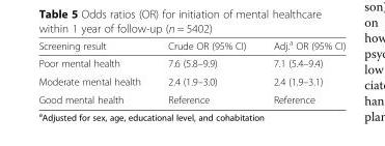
<table><thead><tr><td>Screening result</td><td>Crude OR (95% CI)</td><td>Adj.<sup>a</sup> OR (95% CI)</td></tr></thead><tbody><tr><td>Poor mental health</td><td>7.6 (5.8–9.9)</td><td>7.1 (5.4–9.4)</td></tr><tr><td>Moderate mental health</td><td>2.4 (1.9–3.0)</td><td>2.4 (1.9–3.1)</td></tr><tr><td>Good mental health</td><td>Reference</td><td>Reference</td></tr></tbody></table>